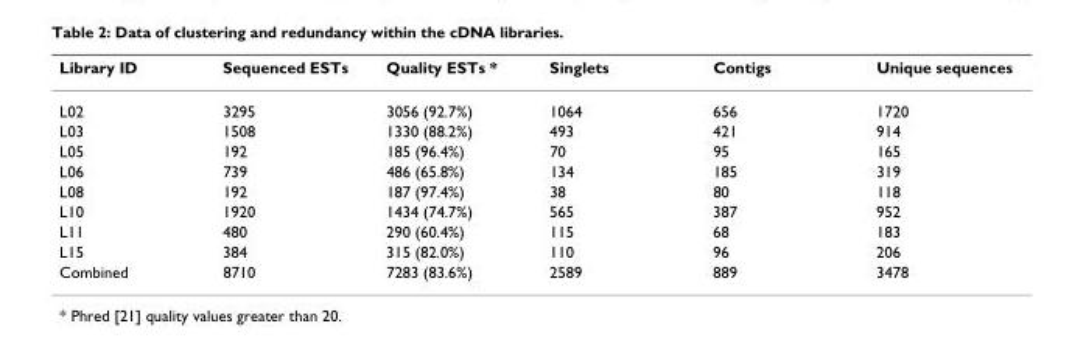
<table><thead><tr><td>Library ID</td><td>Sequenced ESTs</td><td>Quality ESTs *</td><td>Singlets</td><td>Contigs</td><td>Unique sequences</td></tr></thead><tbody><tr><td>L02</td><td>3295</td><td>3056 (92.7%)</td><td>1064</td><td>656</td><td>1720</td></tr><tr><td>L03</td><td>1508</td><td>1330 (88.2%)</td><td>493</td><td>421</td><td>914</td></tr><tr><td>L05</td><td>192</td><td>185 (96.4%)</td><td>70</td><td>95</td><td>165</td></tr><tr><td>L06</td><td>739</td><td>486 (65.8%)</td><td>134</td><td>185</td><td>319</td></tr><tr><td>L08</td><td>192</td><td>187 (97.4%)</td><td>38</td><td>80</td><td>118</td></tr><tr><td>L10</td><td>1920</td><td>1434 (74.7%)</td><td>565</td><td>387</td><td>952</td></tr><tr><td>L11</td><td>480</td><td>290 (60.4%)</td><td>115</td><td>68</td><td>183</td></tr><tr><td>L15</td><td>384</td><td>315 (82.0%)</td><td>110</td><td>96</td><td>206</td></tr><tr><td>Combined</td><td>8710</td><td>7283 (83.6%)</td><td>2589</td><td>889</td><td>3478</td></tr></tbody></table>